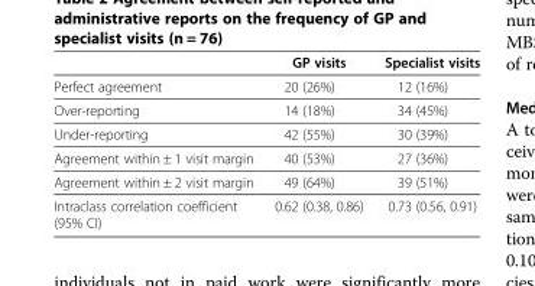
<table><thead><tr><td></td><td>GP visits</td><td>Specialist visits</td></tr></thead><tbody><tr><td>Perfect agreement</td><td>20 (26%)</td><td>12 (16%)</td></tr><tr><td>Over-reporting</td><td>14 (18%)</td><td>34 (45%)</td></tr><tr><td>Under-reporting</td><td>42 (55%)</td><td>30 (39%)</td></tr><tr><td>Agreement within ± 1 visit margin</td><td>40 (53%)</td><td>27 (36%)</td></tr><tr><td>Agreement within ± 2 visit margin</td><td>49 (64%)</td><td>39 (51%)</td></tr><tr><td>Intraclass correlation coefficient (95% CI)</td><td>0.62 (0.38, 0.86)</td><td>0.73 (0.56, 0.91)</td></tr></tbody></table>